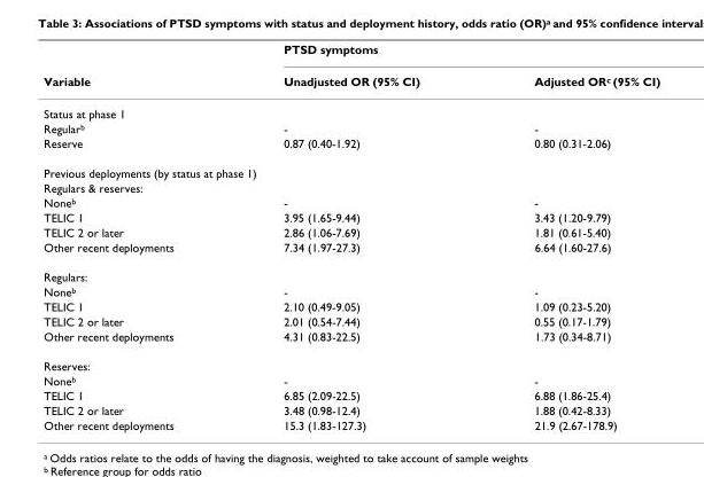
<table><thead><tr><td rowspan="2">Variable</td><td colspan="2">PTSD symptoms</td></tr><tr><td>Unadjusted OR (95% CI)</td><td>Adjusted OR<sup>c</sup> (95% CI)</td></tr></thead><tbody><tr><td colspan="3">Status at phase 1</td></tr><tr><td>Regular<sup>b</sup></td><td>-</td><td>-</td></tr><tr><td>Reserve</td><td>0.87 (0.40-1.92)</td><td>0.80 (0.31-2.06)</td></tr><tr><td colspan="3">Previous deployments (by status at phase 1)</td></tr><tr><td colspan="3">Regulars &amp; reserves:</td></tr><tr><td>None<sup>b</sup></td><td>-</td><td>-</td></tr><tr><td>TELIC 1</td><td>3.95 (1.65-9.44)</td><td>3.43 (1.20-9.79)</td></tr><tr><td>TELIC 2 or later</td><td>2.86 (1.06-7.69)</td><td>1.81 (0.61-5.40)</td></tr><tr><td>Other recent deployments</td><td>7.34 (1.97-27.3)</td><td>6.64 (1.60-27.6)</td></tr><tr><td colspan="3">Regulars:</td></tr><tr><td>None<sup>b</sup></td><td>-</td><td>-</td></tr><tr><td>TELIC 1</td><td>2.10 (0.49-9.05)</td><td>1.09 (0.23-5.20)</td></tr><tr><td>TELIC 2 or later</td><td>2.01 (0.54-7.44)</td><td>0.55 (0.17-1.79)</td></tr><tr><td>Other recent deployments</td><td>4.31 (0.83-22.5)</td><td>1.73 (0.34-8.71)</td></tr><tr><td colspan="3">Reserves:</td></tr><tr><td>None<sup>b</sup></td><td>-</td><td>-</td></tr><tr><td>TELIC 1</td><td>6.85 (2.09-22.5)</td><td>6.88 (1.86-25.4)</td></tr><tr><td>TELIC 2 or later</td><td>3.48 (0.98-12.4)</td><td>1.88 (0.42-8.33)</td></tr><tr><td>Other recent deployments</td><td>15.3 (1.83-127.3)</td><td>21.9 (2.67-178.9)</td></tr></tbody></table>